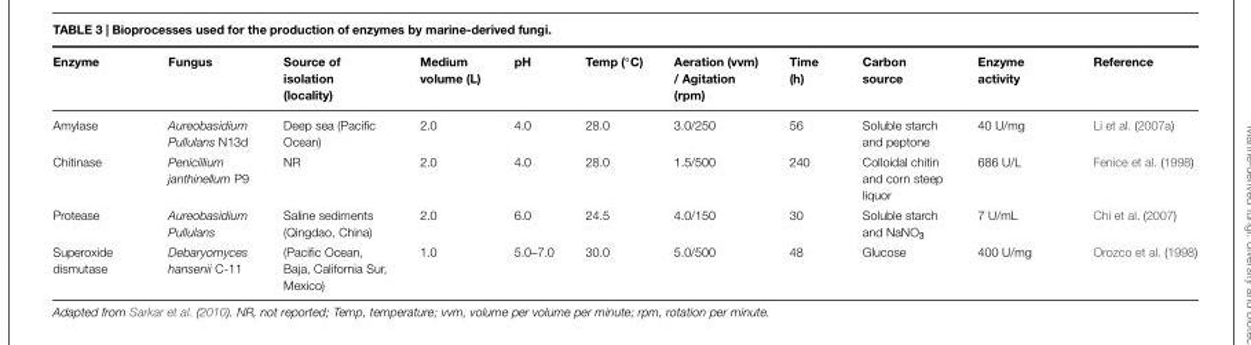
<table><thead><tr><td>Enzyme</td><td>Fungus</td><td>Source of isolation (locality)</td><td>Medium volume (L)</td><td>pH</td><td>Temp (◦C)</td><td>Aeration (vvm) / Agitation (rpm)</td><td>Time (h)</td><td>Carbon source</td><td>Enzyme activity</td><td>Reference</td></tr></thead><tbody><tr><td>Amylase</td><td>Aureobasidium Pullulans N13d</td><td>Deep sea (Pacific Ocean)</td><td>2.0</td><td>4.0</td><td>28.0</td><td>3.0/250</td><td>56</td><td>Soluble starch and peptone</td><td>40 U/mg</td><td>Li et al. (2007a)</td></tr><tr><td>Chitinase</td><td>Penicillium janthinellum P9</td><td>NR</td><td>2.0</td><td>4.0</td><td>28.0</td><td>1.5/500</td><td>240</td><td>Colloidal chitin and corn steep liquor</td><td>686 U/L</td><td>Fenice et al. (1998)</td></tr><tr><td>Protease</td><td>Aureobasidium Pullulans</td><td>Saline sediments (Qingdao, China)</td><td>2.0</td><td>6.0</td><td>24.5</td><td>4.0/150</td><td>30</td><td>Soluble starch and NaNO<sub>3</sub></td><td>7 U/mL</td><td>Chi et al. (2007)</td></tr><tr><td>Superoxide dismutase</td><td>Debaryomyces hansenii C-11</td><td>(Pacific Ocean, Baja, California Sur, Mexico)</td><td>1.0</td><td>5.0–7.0</td><td>30.0</td><td>5.0/500</td><td>48</td><td>Glucose</td><td>400 U/mg</td><td>Orozco et al. (1998)</td></tr></tbody></table>